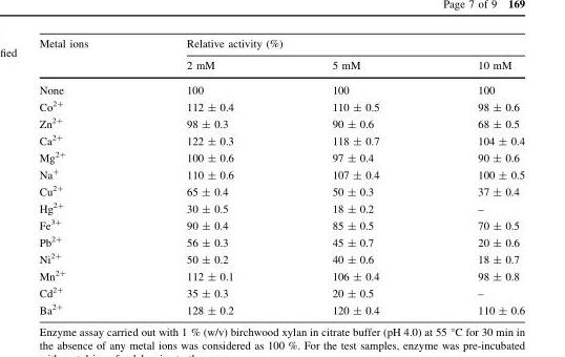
<table><thead><tr><td rowspan="2">Metal ions</td><td colspan="3">Relative activity (%)</td></tr><tr><td>2 mM</td><td>5 mM</td><td>10 mM</td></tr></thead><tbody><tr><td>None</td><td>100</td><td>100</td><td>100</td></tr><tr><td>Co<sup>2+</sup></td><td>112 ± 0.4</td><td>110 ± 0.5</td><td>98 ± 0.6</td></tr><tr><td>Zn<sup>2+</sup></td><td>98 ± 0.3</td><td>90 ± 0.6</td><td>68 ± 0.5</td></tr><tr><td>Ca<sup>2+</sup></td><td>122 ± 0.3</td><td>118 ± 0.7</td><td>104 ± 0.4</td></tr><tr><td>Mg<sup>2+</sup></td><td>100 ± 0.6</td><td>97 ± 0.4</td><td>90 ± 0.6</td></tr><tr><td>Na<sup>+</sup></td><td>110 ± 0.6</td><td>107 ± 0.4</td><td>100 ± 0.5</td></tr><tr><td>Cu<sup>2+</sup></td><td>65 ± 0.4</td><td>50 ± 0.3</td><td>37 ± 0.4</td></tr><tr><td>Hg<sup>2+</sup></td><td>30 ± 0.5</td><td>18 ± 0.2</td><td>–</td></tr><tr><td>Fe<sup>3+</sup></td><td>90 ± 0.4</td><td>85 ± 0.5</td><td>70 ± 0.5</td></tr><tr><td>Pb<sup>2+</sup></td><td>56 ± 0.3</td><td>45 ± 0.7</td><td>20 ± 0.6</td></tr><tr><td>Ni<sup>2+</sup></td><td>50 ± 0.2</td><td>40 ± 0.6</td><td>18 ± 0.7</td></tr><tr><td>Mn<sup>2+</sup></td><td>112 ± 0.1</td><td>106 ± 0.4</td><td>98 ± 0.8</td></tr><tr><td>Cd<sup>2+</sup></td><td>35 ± 0.3</td><td>20 ± 0.5</td><td>–</td></tr><tr><td>Ba<sup>2+</sup></td><td>128 ± 0.2</td><td>120 ± 0.4</td><td>110 ± 0.6</td></tr></tbody></table>